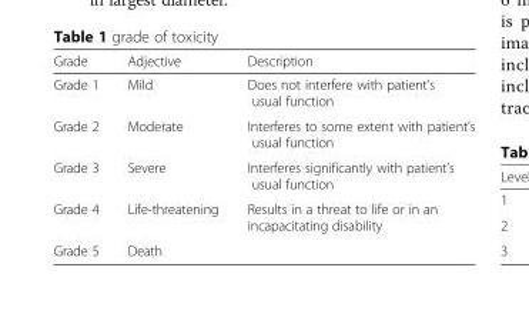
<table><thead><tr><td>Grade</td><td>Adjective</td><td>Description</td></tr></thead><tbody><tr><td>Grade 1</td><td>Mild</td><td>Does not interfere with patient’s usual function</td></tr><tr><td>Grade 2</td><td>Moderate</td><td>Interferes to some extent with patient’s usual function</td></tr><tr><td>Grade 3</td><td>Severe</td><td>Interferes significantly with patient’s usual function</td></tr><tr><td>Grade 4</td><td>Life-threatening</td><td>Results in a threat to life or in an incapacitating disability</td></tr><tr><td>Grade 5</td><td>Death</td><td></td></tr></tbody></table>